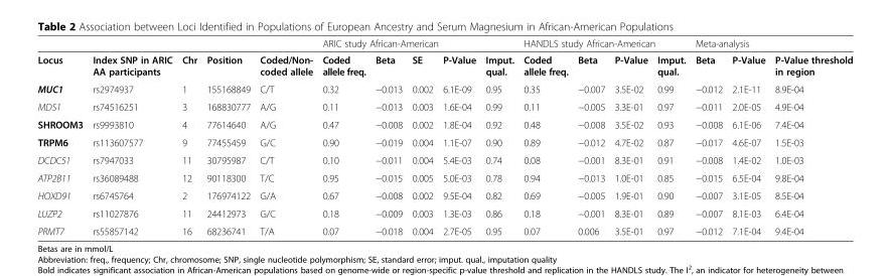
<table><thead><tr><td rowspan="2">Locus</td><td rowspan="2">Index SNP in ARIC AA participants</td><td rowspan="2">Chr</td><td rowspan="2">Position</td><td rowspan="2">Coded/Non- coded allele</td><td colspan="5">ARIC study African-American</td><td colspan="4">HANDLS study African-American</td><td colspan="2">Meta-analysis</td><td rowspan="2">P-Value threshold in region</td></tr><tr><td>Coded allele freq.</td><td>Beta</td><td>SE</td><td>P-Value</td><td>Imput. qual.</td><td>Coded allele freq.</td><td>Beta</td><td>P-Value</td><td>Imput. qual.</td><td>Beta</td><td>P-Value</td></tr></thead><tbody><tr><td>MUC1</td><td>rs2974937</td><td>1</td><td>155168849</td><td>C/T</td><td>0.32</td><td>−0.013</td><td>0.002</td><td>6.1E-09</td><td>0.95</td><td>0.35</td><td>−0.007</td><td>3.5E-02</td><td>0.99</td><td>−0.012</td><td>2.1E-11</td><td>8.9E-04</td></tr><tr><td>MDS1</td><td>rs74516251</td><td>3</td><td>168830777</td><td>A/G</td><td>0.11</td><td>−0.013</td><td>0.003</td><td>1.6E-04</td><td>0.99</td><td>0.11</td><td>−0.005</td><td>3.3E-01</td><td>0.97</td><td>−0.011</td><td>2.0E-05</td><td>4.9E-04</td></tr><tr><td>SHROOM3</td><td>rs9993810</td><td>4</td><td>77614640</td><td>A/G</td><td>0.47</td><td>−0.008</td><td>0.002</td><td>1.8E-04</td><td>0.92</td><td>0.48</td><td>−0.008</td><td>3.5E-02</td><td>0.93</td><td>−0.008</td><td>6.1E-06</td><td>7.4E-04</td></tr><tr><td>TRPM6</td><td>rs113607577</td><td>9</td><td>77455459</td><td>G/C</td><td>0.90</td><td>−0.019</td><td>0.004</td><td>1.1E-07</td><td>0.90</td><td>0.89</td><td>−0.012</td><td>4.7E-02</td><td>0.87</td><td>−0.017</td><td>4.6E-07</td><td>1.5E-03</td></tr><tr><td>DCDC51</td><td>rs7947033</td><td>11</td><td>30795987</td><td>C/T</td><td>0.10</td><td>−0.011</td><td>0.004</td><td>5.4E-03</td><td>0.74</td><td>0.08</td><td>−0.001</td><td>8.3E-01</td><td>0.91</td><td>−0.008</td><td>1.4E-02</td><td>1.0E-03</td></tr><tr><td>ATP2B11</td><td>rs36089488</td><td>12</td><td>90118300</td><td>T/C</td><td>0.95</td><td>−0.015</td><td>0.005</td><td>5.0E-03</td><td>0.78</td><td>0.94</td><td>−0.013</td><td>1.0E-01</td><td>0.85</td><td>−0.015</td><td>6.5E-04</td><td>9.8E-04</td></tr><tr><td>HOXD91</td><td>rs6745764</td><td>2</td><td>176974122</td><td>G/A</td><td>0.67</td><td>−0.008</td><td>0.002</td><td>9.5E-04</td><td>0.82</td><td>0.69</td><td>−0.005</td><td>1.9E-01</td><td>0.90</td><td>−0.007</td><td>3.1E-05</td><td>8.5E-04</td></tr><tr><td>LUZP2</td><td>rs11027876</td><td>11</td><td>24412973</td><td>G/C</td><td>0.18</td><td>−0.009</td><td>0.003</td><td>1.3E-03</td><td>0.86</td><td>0.18</td><td>−0.001</td><td>8.3E-01</td><td>0.89</td><td>−0.007</td><td>8.1E-03</td><td>6.4E-04</td></tr><tr><td>PRMT7</td><td>rs55857142</td><td>16</td><td>68236741</td><td>T/A</td><td>0.07</td><td>−0.018</td><td>0.004</td><td>2.7E-05</td><td>0.95</td><td>0.07</td><td>0.006</td><td>3.5E-01</td><td>0.97</td><td>−0.012</td><td>7.1E-04</td><td>9.4E-04</td></tr></tbody></table>